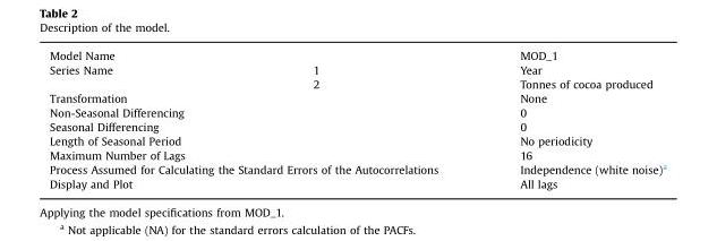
<table><tbody><tr><td colspan="2">Model Name</td><td>MOD_1</td></tr><tr><td rowspan="2">Series Name</td><td>1</td><td>Year</td></tr><tr><td>2</td><td>Tonnes of cocoa produced</td></tr><tr><td colspan="2">Transformation</td><td>None</td></tr><tr><td colspan="2">Non-Seasonal Differencing</td><td>0</td></tr><tr><td colspan="2">Seasonal Differencing</td><td>0</td></tr><tr><td colspan="2">Length of Seasonal Period</td><td>No periodicity</td></tr><tr><td colspan="2">Maximum Number of Lags</td><td>16</td></tr><tr><td colspan="2">Process Assumed for Calculating the Standard Errors of the Autocorrelations</td><td>Independence (white noise)<sup>a</sup></td></tr><tr><td colspan="2">Display and Plot</td><td>All lags</td></tr></tbody></table>